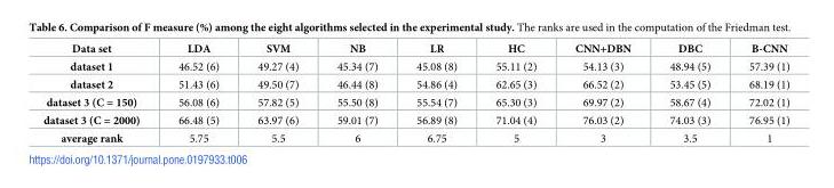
<table><thead><tr><td>Data set</td><td>LDA</td><td>SVM</td><td>NB</td><td>LR</td><td>HC</td><td>CNN+DBN</td><td>DBC</td><td>B-CNN</td></tr></thead><tbody><tr><td>dataset 1</td><td>46.52 (6)</td><td>49.27 (4)</td><td>45.34 (7)</td><td>45.08 (8)</td><td>55.11 (2)</td><td>54.13 (3)</td><td>48.94 (5)</td><td>57.39 (1)</td></tr><tr><td>dataset 2</td><td>51.43 (6)</td><td>49.50 (7)</td><td>46.44 (8)</td><td>54.86 (4)</td><td>62.65 (3)</td><td>66.52 (2)</td><td>53.45 (5)</td><td>68.19 (1)</td></tr><tr><td>dataset 3 (C = 150)</td><td>56.08 (6)</td><td>57.82 (5)</td><td>55.50 (8)</td><td>55.54 (7)</td><td>65.30 (3)</td><td>69.97 (2)</td><td>58.67 (4)</td><td>72.02 (1)</td></tr><tr><td>dataset 3 (C = 2000)</td><td>66.48 (5)</td><td>63.97 (6)</td><td>59.01 (7)</td><td>56.89 (8)</td><td>71.04 (4)</td><td>76.03 (2)</td><td>74.03 (3)</td><td>76.95 (1)</td></tr><tr><td>average rank</td><td>5.75</td><td>5.5</td><td>6</td><td>6.75</td><td>5</td><td>3</td><td>3.5</td><td>1</td></tr></tbody></table>